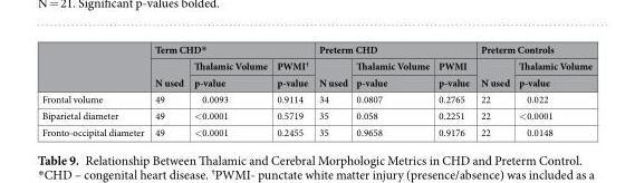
<table><thead><tr><td rowspan="3"></td><td colspan="3">Term CHD*</td><td colspan="3">Preterm CHD</td><td colspan="2">Preterm Controls</td></tr><tr><td rowspan="2">N used</td><td rowspan="2">Thalamic Volume p-value</td><td rowspan="2">PWMI<sup>†</sup> p-value</td><td rowspan="2">N used</td><td rowspan="2">Thalamic Volume p-value</td><td rowspan="2">PWMI p-value</td><td rowspan="2">N used</td><td rowspan="2">Thalamic Volume p-value</td></tr><tr></tr></thead><tbody><tr><td>Frontal volume</td><td>49</td><td>0.0093</td><td>0.9114</td><td>34</td><td>0.0807</td><td>0.2765</td><td>22</td><td>0.022</td></tr><tr><td>Biparietal diameter</td><td>49</td><td>&lt;0.0001</td><td>0.5719</td><td>35</td><td>0.058</td><td>0.2251</td><td>22</td><td>&lt;0.0001</td></tr><tr><td>Fronto-occipital diameter</td><td>49</td><td>&lt;0.0001</td><td>0.2455</td><td>35</td><td>0.9658</td><td>0.9176</td><td>22</td><td>0.0148</td></tr></tbody></table>